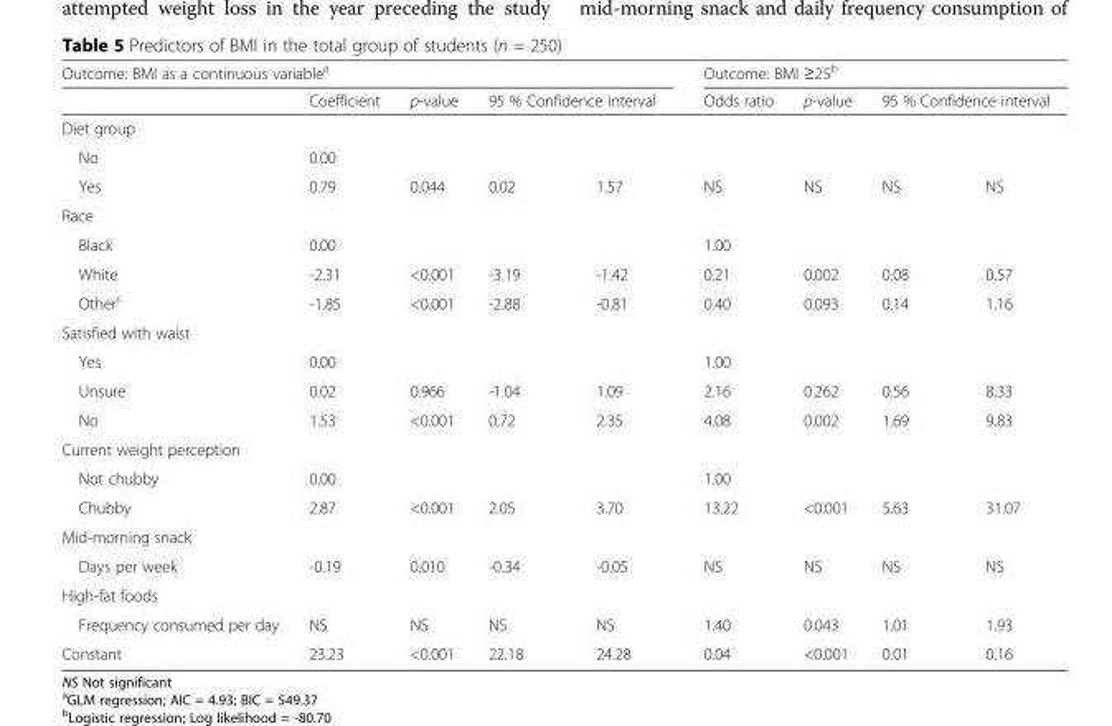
<table><thead><tr><td colspan="5">Outcome: BMI as a continuous variable<sup>a</sup></td><td colspan="4">Outcome: BMI ≥25<sup>b</sup></td></tr><tr><td></td><td>Coefficient</td><td>p-value</td><td colspan="2">95 % Confidence interval</td><td>Odds ratio</td><td>p-value</td><td colspan="2">95 % Confidence interval</td></tr><tr><td colspan="9">Diet group</td></tr><tr><td>No</td><td>0.00</td><td></td><td></td><td></td><td></td><td></td><td></td><td></td></tr></thead><tbody><tr><td>Yes</td><td>0.79</td><td>0.044</td><td>0.02</td><td>1.57</td><td>NS</td><td>NS</td><td>NS</td><td>NS</td></tr><tr><td colspan="9">Race</td></tr><tr><td>Black</td><td>0.00</td><td></td><td></td><td></td><td>1.00</td><td></td><td></td><td></td></tr><tr><td>White</td><td>-2.31</td><td>&lt;0.001</td><td>-3.19</td><td>-1.42</td><td>0.21</td><td>0.002</td><td>0.08</td><td>0.57</td></tr><tr><td>Other<sup>c</sup></td><td>-1.85</td><td>&lt;0.001</td><td>-2.88</td><td>-0.81</td><td>0.40</td><td>0.093</td><td>0.14</td><td>1.16</td></tr><tr><td colspan="9">Satisfied with waist</td></tr><tr><td>Yes</td><td>0.00</td><td></td><td></td><td></td><td>1.00</td><td></td><td></td><td></td></tr><tr><td>Unsure</td><td>0.02</td><td>0.966</td><td>-1.04</td><td>1.09</td><td>2.16</td><td>0.262</td><td>0.56</td><td>8.33</td></tr><tr><td>No</td><td>1.53</td><td>&lt;0.001</td><td>0.72</td><td>2.35</td><td>4.08</td><td>0.002</td><td>1.69</td><td>9.83</td></tr><tr><td colspan="9">Current weight perception</td></tr><tr><td>Not chubby</td><td>0.00</td><td></td><td></td><td></td><td>1.00</td><td></td><td></td><td></td></tr><tr><td>Chubby</td><td>2.87</td><td>&lt;0.001</td><td>2.05</td><td>3.70</td><td>13.22</td><td>&lt;0.001</td><td>5.63</td><td>31.07</td></tr><tr><td colspan="9">Mid-morning snack</td></tr><tr><td>Days per week</td><td>-0.19</td><td>0.010</td><td>-0.34</td><td>-0.05</td><td>NS</td><td>NS</td><td>NS</td><td>NS</td></tr><tr><td colspan="9">High-fat foods</td></tr><tr><td>Frequency consumed per day</td><td>NS</td><td>NS</td><td>NS</td><td>NS</td><td>1.40</td><td>0.043</td><td>1.01</td><td>1.93</td></tr><tr><td>Constant</td><td>23.23</td><td>&lt;0.001</td><td>22.18</td><td>24.28</td><td>0.04</td><td>&lt;0.001</td><td>0.01</td><td>0.16</td></tr></tbody></table>